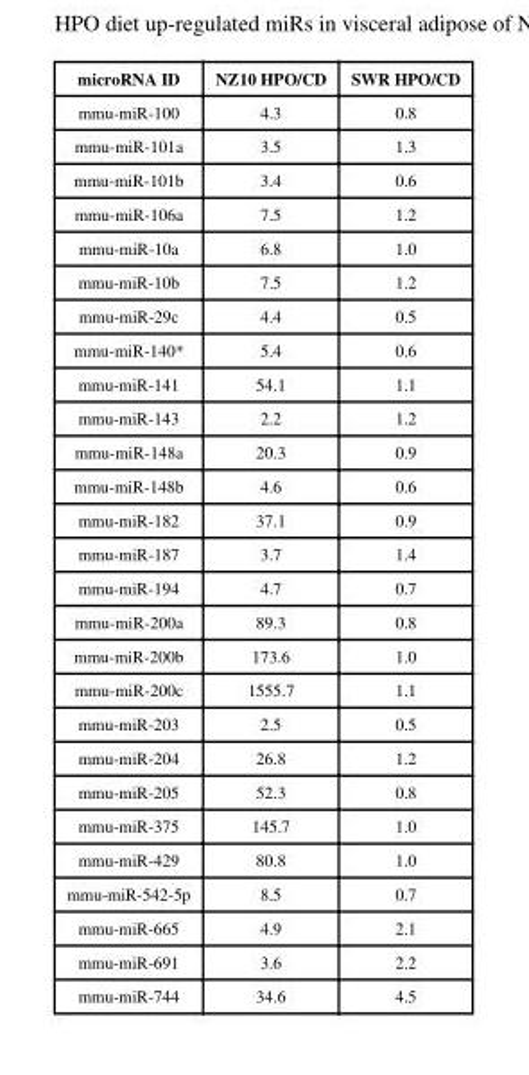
<table><thead><tr><td>microRNA ID</td><td>NZ10 HPO/CD</td><td>SWR HPO/CD</td></tr></thead><tbody><tr><td>mmu-miR-100</td><td>4.3</td><td>0.8</td></tr><tr><td>mmu-miR-101a</td><td>3.5</td><td>1.3</td></tr><tr><td>mmu-miR-101b</td><td>3.4</td><td>0.6</td></tr><tr><td>mmu-miR-106a</td><td>7.5</td><td>1.2</td></tr><tr><td>mmu-miR-10a</td><td>6.8</td><td>1.0</td></tr><tr><td>mmu-miR-10b</td><td>7.5</td><td>1.2</td></tr><tr><td>mmu-miR-29c</td><td>4.4</td><td>0.5</td></tr><tr><td>mmu-miR-140*</td><td>5.4</td><td>0.6</td></tr><tr><td>mmu-miR-141</td><td>54.1</td><td>1.1</td></tr><tr><td>mmu-miR-143</td><td>2.2</td><td>1.2</td></tr><tr><td>mmu-miR-148a</td><td>20.3</td><td>0.9</td></tr><tr><td>mmu-miR-148b</td><td>4.6</td><td>0.6</td></tr><tr><td>mmu-miR-182</td><td>37.1</td><td>0.9</td></tr><tr><td>mmu-miR-187</td><td>3.7</td><td>1.4</td></tr><tr><td>mmu-miR-194</td><td>4.7</td><td>0.7</td></tr><tr><td>mmu-miR-200a</td><td>89.3</td><td>0.8</td></tr><tr><td>mmu-miR-200b</td><td>173.6</td><td>1.0</td></tr><tr><td>mmu-miR-200c</td><td>1555.7</td><td>1.1</td></tr><tr><td>mmu-miR-203</td><td>2.5</td><td>0.5</td></tr><tr><td>mmu-miR-204</td><td>26.8</td><td>1.2</td></tr><tr><td>mmu-miR-205</td><td>52.3</td><td>0.8</td></tr><tr><td>mmu-miR-375</td><td>145.7</td><td>1.0</td></tr><tr><td>mmu-miR-429</td><td>80.8</td><td>1.0</td></tr><tr><td>mmu-miR-542-5p</td><td>8.5</td><td>0.7</td></tr><tr><td>mmu-miR-665</td><td>4.9</td><td>2.1</td></tr><tr><td>mmu-miR-691</td><td>3.6</td><td>2.2</td></tr><tr><td>mmu-miR-744</td><td>34.6</td><td>4.5</td></tr></tbody></table>